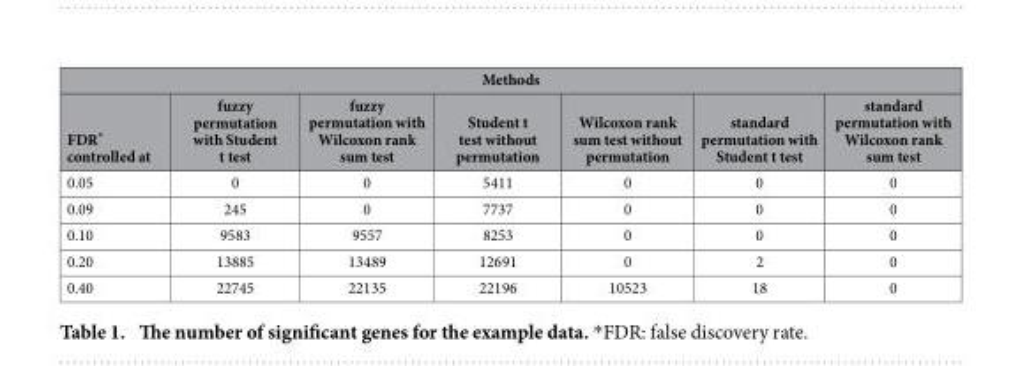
<table><thead><tr><td colspan="7">Methods</td></tr><tr><td>FDR* controlled at</td><td>fuzzy permutation with Student t test</td><td>fuzzy permutation with Wilcoxon rank sum test</td><td>Student t test without permutation</td><td>Wilcoxon rank sum test without permutation</td><td>standard permutation with Student t test</td><td>standard permutation with Wilcoxon rank sum test</td></tr></thead><tbody><tr><td>0.05</td><td>0</td><td>0</td><td>5411</td><td>0</td><td>0</td><td>0</td></tr><tr><td>0.09</td><td>245</td><td>0</td><td>7737</td><td>0</td><td>0</td><td>0</td></tr><tr><td>0.10</td><td>9583</td><td>9557</td><td>8253</td><td>0</td><td>0</td><td>0</td></tr><tr><td>0.20</td><td>13885</td><td>13489</td><td>12691</td><td>0</td><td>2</td><td>0</td></tr><tr><td>0.40</td><td>22745</td><td>22135</td><td>22196</td><td>10523</td><td>18</td><td>0</td></tr></tbody></table>